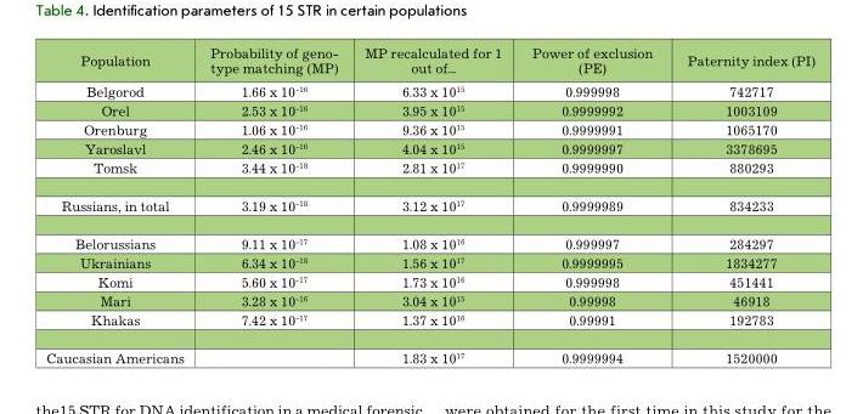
<table><thead><tr><td>Population</td><td>Probability of geno- type matching (MP)</td><td>MP recalculated for 1 out of...</td><td>Power of exclusion (PE)</td><td>Paternity index (PI)</td></tr></thead><tbody><tr><td>Belgorod</td><td>1.66 x 10<sup>-16</sup></td><td>6.33 x 10<sup>15</sup></td><td>0.999998</td><td>742717</td></tr><tr><td>Orel</td><td>2.53 x 10<sup>-16</sup></td><td>3.95 x 10<sup>15</sup></td><td>0.9999992</td><td>1003109</td></tr><tr><td>Orenburg</td><td>1.06 x 10<sup>-16</sup></td><td>9.36 x 10<sup>15</sup></td><td>0.9999991</td><td>1065170</td></tr><tr><td>Yaroslavl</td><td>2.46 x 10<sup>-16</sup></td><td>4.04 x 10<sup>15</sup></td><td>0.9999997</td><td>3378695</td></tr><tr><td>Tomsk</td><td>3.44 x 10<sup>-18</sup></td><td>2.81 x 10<sup>17</sup></td><td>0.9999990</td><td>880293</td></tr><tr><td>Russians, in total</td><td>3.19 x 10<sup>-18</sup></td><td>3.12 x 10<sup>17</sup></td><td>0.9999989</td><td>834233</td></tr><tr><td>Belorussians</td><td>9.11 x 10<sup>-17</sup></td><td>1.08 x 10<sup>16</sup></td><td>0.999997</td><td>284297</td></tr><tr><td>Ukrainians</td><td>6.34 x 10<sup>-18</sup></td><td>1.56 x 10<sup>17</sup></td><td>0.9999995</td><td>1834277</td></tr><tr><td>Komi</td><td>5.60 x 10<sup>-17</sup></td><td>1.73 x 10<sup>16</sup></td><td>0.999998</td><td>451441</td></tr><tr><td>Mari</td><td>3.28 x 10<sup>-16</sup></td><td>3.04 x 10<sup>15</sup></td><td>0.99998</td><td>46918</td></tr><tr><td>Khakas</td><td>7.42 x 10<sup>-17</sup></td><td>1.37 x 10<sup>16</sup></td><td>0.99991</td><td>192783</td></tr><tr><td>Caucasian Americans</td><td></td><td>1.83 x 10<sup>17</sup></td><td>0.9999994</td><td>1520000</td></tr></tbody></table>